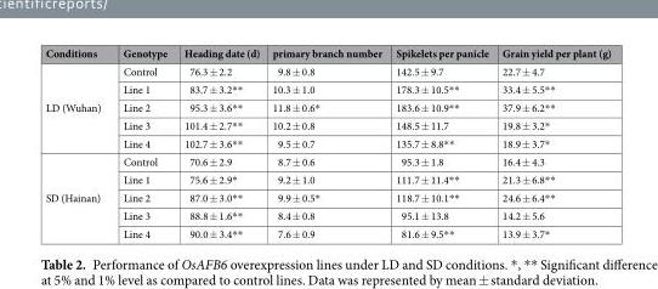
<table><thead><tr><td>Conditions</td><td>Genotype</td><td>Heading date (d)</td><td>primary branch number</td><td>Spikelets per panicle</td><td>Grain yield per plant (g)</td></tr></thead><tbody><tr><td rowspan="5">LD (Wuhan)</td><td>Control</td><td>76.3 ± 2.2</td><td>9.8 ± 0.8</td><td>142.5 ± 9.7</td><td>22.7 ± 4.7</td></tr><tr><td>Line 1</td><td>83.7 ± 3.2**</td><td>10.3 ± 1.0</td><td>178.3 ± 10.5**</td><td>33.4 ± 5.5**</td></tr><tr><td>Line 2</td><td>95.3 ± 3.6**</td><td>11.8 ± 0.6*</td><td>183.6 ± 10.9**</td><td>37.9 ± 6.2**</td></tr><tr><td>Line 3</td><td>101.4 ± 2.7**</td><td>10.2 ± 0.8</td><td>148.5 ± 11.7</td><td>19.8 ± 3.2*</td></tr><tr><td>Line 4</td><td>102.7 ± 3.6**</td><td>9.5 ± 0.7</td><td>135.7 ± 8.8**</td><td>18.9 ± 3.7*</td></tr><tr><td rowspan="5">SD (Hainan)</td><td>Control</td><td>70.6 ± 2.9</td><td>8.7 ± 0.6</td><td>95.3 ± 1.8</td><td>16.4 ± 4.3</td></tr><tr><td>Line 1</td><td>75.6 ± 2.9*</td><td>9.2 ± 1.0</td><td>111.7 ± 11.4**</td><td>21.3 ± 6.8**</td></tr><tr><td>Line 2</td><td>87.0 ± 3.0**</td><td>9.9 ± 0.5*</td><td>118.7 ± 10.1**</td><td>24.6 ± 6.4**</td></tr><tr><td>Line 3</td><td>88.8 ± 1.6**</td><td>8.4 ± 0.8</td><td>95.1 ± 13.8</td><td>14.2 ± 5.6</td></tr><tr><td>Line 4</td><td>90.0 ± 3.4**</td><td>7.6 ± 0.9</td><td>81.6 ± 9.5**</td><td>13.9 ± 3.7*</td></tr></tbody></table>